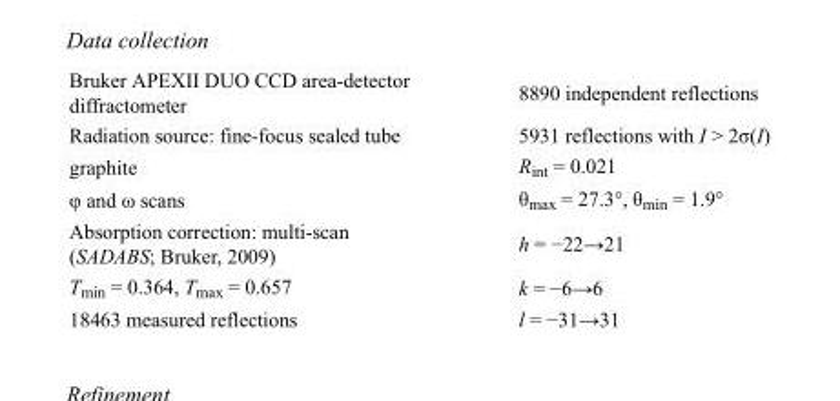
<table><tbody><tr><td>Bruker APEXII DUO CCD area-detector diffractometer</td><td>8890 independent reflections</td></tr><tr><td>Radiation source: fine-focus sealed tube</td><td>5931 reflections with I &gt; 2σ(I)</td></tr><tr><td>graphite</td><td>R<sub>int</sub> = 0.021</td></tr><tr><td>φ and ω scans</td><td>θ<sub>max</sub> = 27.3°, θ<sub>min</sub> = 1.9°</td></tr><tr><td>Absorption correction: multi-scan (SADABS; Bruker, 2009)</td><td>h = −22→21</td></tr><tr><td>T<sub>min</sub> = 0.364, T<sub>max</sub> = 0.657</td><td>k = −6→6</td></tr><tr><td>18463 measured reflections</td><td>l = −31→31</td></tr></tbody></table>